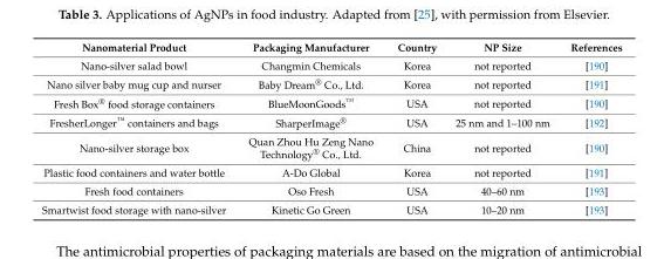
<table><thead><tr><td>Nanomaterial Product</td><td>Packaging Manufacturer</td><td>Country</td><td>NP Size</td><td>References</td></tr></thead><tbody><tr><td>Nano-silver salad bowl</td><td>Changmin Chemicals</td><td>Korea</td><td>not reported</td><td>[190]</td></tr><tr><td>Nano silver baby mug cup and nurser</td><td>Baby Dream<sup>®</sup> Co., Ltd.</td><td>Korea</td><td>not reported</td><td>[191]</td></tr><tr><td>Fresh Box<sup>®</sup> food storage containers</td><td>BlueMoonGoods<sup>™</sup></td><td>USA</td><td>not reported</td><td>[190]</td></tr><tr><td>FresherLonger<sup>™</sup> containers and bags</td><td>SharperImage<sup>®</sup></td><td>USA</td><td>25 nm and 1–100 nm</td><td>[192]</td></tr><tr><td>Nano-silver storage box</td><td>Quan Zhou Hu Zeng Nano Technology<sup>®</sup> Co., Ltd.</td><td>China</td><td>not reported</td><td>[190]</td></tr><tr><td>Plastic food containers and water bottle</td><td>A-Do Global</td><td>Korea</td><td>not reported</td><td>[191]</td></tr><tr><td>Fresh food containers</td><td>Oso Fresh</td><td>USA</td><td>40–60 nm</td><td>[193]</td></tr><tr><td>Smartwist food storage with nano-silver</td><td>Kinetic Go Green</td><td>USA</td><td>10–20 nm</td><td>[193]</td></tr></tbody></table>